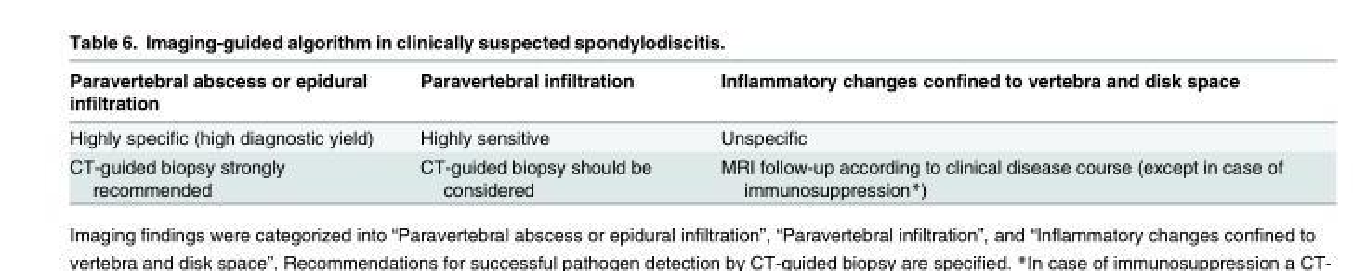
<table><thead><tr><td>Paravertebral abscess or epidural infiltration</td><td>Paravertebral infiltration</td><td>Inflammatory changes confined to vertebra and disk space</td></tr></thead><tbody><tr><td>Highly specific (high diagnostic yield)</td><td>Highly sensitive</td><td>Unspecific</td></tr><tr><td>CT-guided biopsy strongly recommended</td><td>CT-guided biopsy should be considered</td><td>MRI follow-up according to clinical disease course (except in case of immunosuppression*)</td></tr></tbody></table>